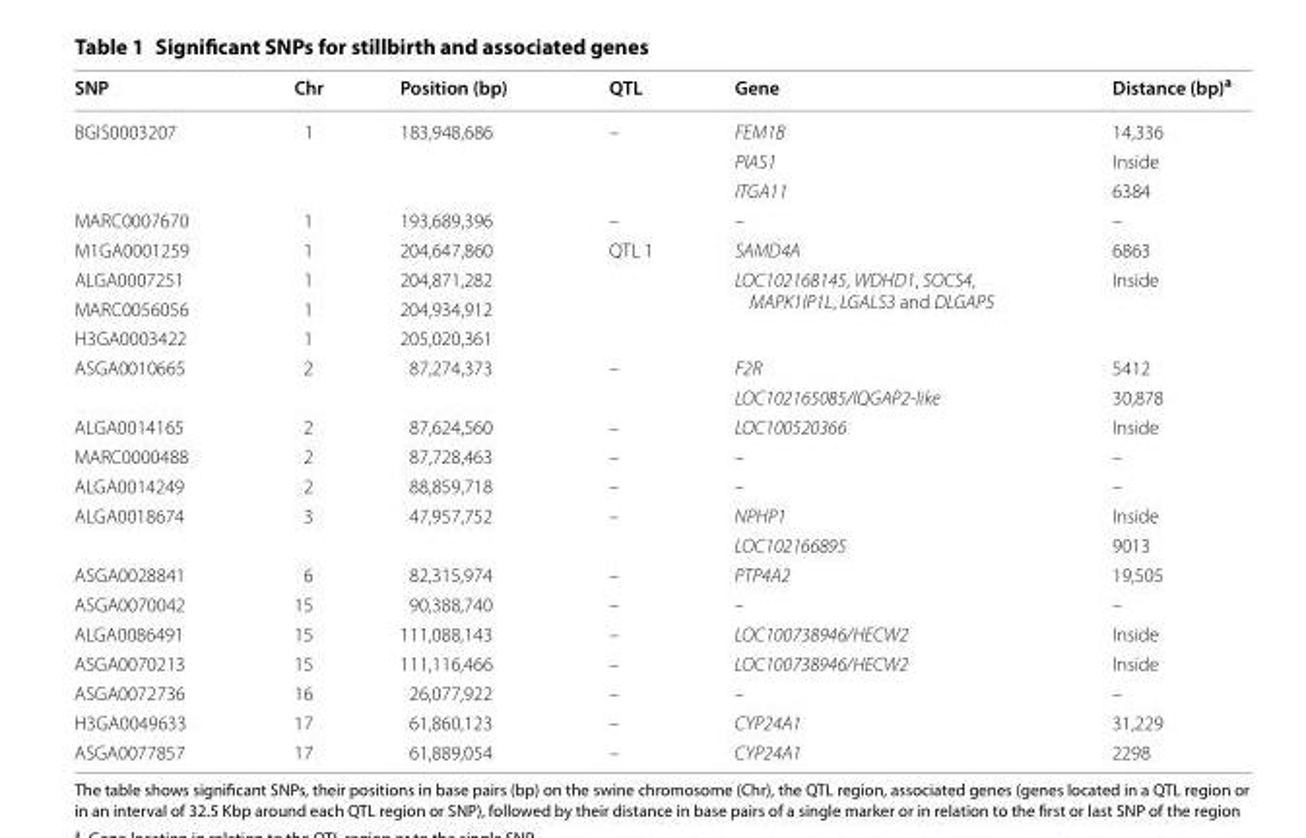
<table><thead><tr><td>SNP</td><td>Chr</td><td>Position (bp)</td><td>QTL</td><td>Gene</td><td>Distance (bp)<sup>a</sup></td></tr></thead><tbody><tr><td rowspan="3">BGIS0003207</td><td rowspan="3">1</td><td>183,948,686</td><td rowspan="3">–</td><td>FEM1B</td><td>14,336</td></tr><tr><td></td><td>PIAS1</td><td>Inside</td></tr><tr><td></td><td>ITGA11</td><td>6384</td></tr><tr><td>MARC0007670</td><td>1</td><td>193,689,396</td><td>–</td><td>–</td><td>–</td></tr><tr><td>M1GA0001259</td><td>1</td><td>204,647,860</td><td rowspan="4">QTL 1</td><td>SAMD4A</td><td>6863</td></tr><tr><td>ALGA0007251</td><td>1</td><td>204,871,282</td><td rowspan="3">LOC102168145, WDHD1, SOCS4, MAPK1IP1L, LGALS3 and DLGAP5</td><td rowspan="3">Inside</td></tr><tr><td>MARC0056056</td><td>1</td><td>204,934,912</td></tr><tr><td>H3GA0003422</td><td>1</td><td>205,020,361</td></tr><tr><td rowspan="2">ASGA0010665</td><td rowspan="2">2</td><td rowspan="2">87,274,373</td><td rowspan="2">–</td><td>F2R</td><td>5412</td></tr><tr><td>LOC102165085/IQGAP2-like</td><td>30,878</td></tr><tr><td>ALGA0014165</td><td>2</td><td>87,624,560</td><td>–</td><td>LOC100520366</td><td>Inside</td></tr><tr><td>MARC0000488</td><td>2</td><td>87,728,463</td><td>–</td><td>–</td><td>–</td></tr><tr><td>ALGA0014249</td><td>2</td><td>88,859,718</td><td>–</td><td>–</td><td>–</td></tr><tr><td rowspan="2">ALGA0018674</td><td rowspan="2">3</td><td rowspan="2">47,957,752</td><td rowspan="2">–</td><td>NPHP1</td><td>Inside</td></tr><tr><td>LOC102166895</td><td>9013</td></tr><tr><td>ASGA0028841</td><td>6</td><td>82,315,974</td><td>–</td><td>PTP4A2</td><td>19,505</td></tr><tr><td>ASGA0070042</td><td>15</td><td>90,388,740</td><td>–</td><td>–</td><td>–</td></tr><tr><td>ALGA0086491</td><td>15</td><td>111,088,143</td><td>–</td><td>LOC100738946/HECW2</td><td>Inside</td></tr><tr><td>ASGA0070213</td><td>15</td><td>111,116,466</td><td>–</td><td>LOC100738946/HECW2</td><td>Inside</td></tr><tr><td>ASGA0072736</td><td>16</td><td>26,077,922</td><td>–</td><td>–</td><td>–</td></tr><tr><td>H3GA0049633</td><td>17</td><td>61,860,123</td><td>–</td><td>CYP24A1</td><td>31,229</td></tr><tr><td>ASGA0077857</td><td>17</td><td>61,889,054</td><td>–</td><td>CYP24A1</td><td>2298</td></tr></tbody></table>